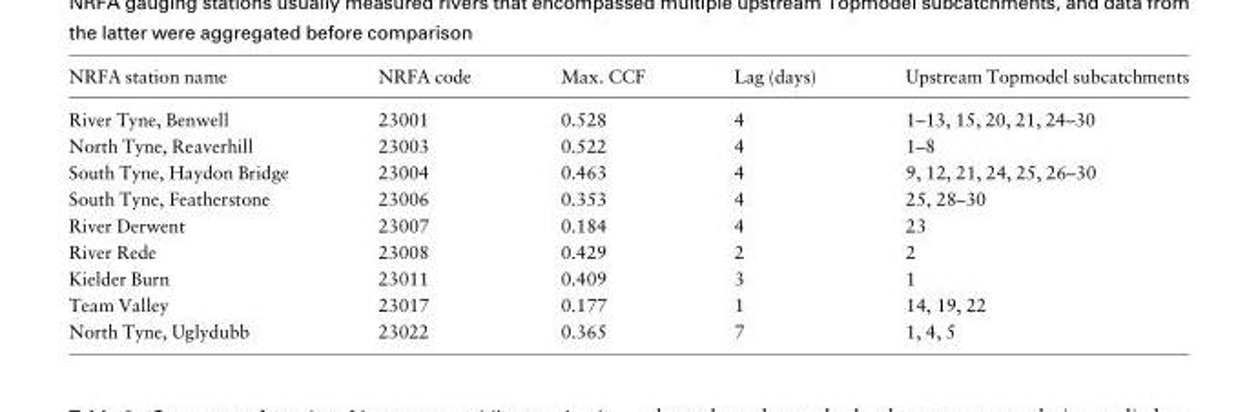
<table><thead><tr><td>NRFA station name</td><td>NRFA code</td><td>Max. CCF</td><td>Lag (days)</td><td>Upstream Topmodel subcatchments</td></tr></thead><tbody><tr><td>River Tyne, Benwell</td><td>23001</td><td>0.528</td><td>4</td><td>1–13, 15, 20, 21, 24–30</td></tr><tr><td>North Tyne, Reaverhill</td><td>23003</td><td>0.522</td><td>4</td><td>1–8</td></tr><tr><td>South Tyne, Haydon Bridge</td><td>23004</td><td>0.463</td><td>4</td><td>9, 12, 21, 24, 25, 26–30</td></tr><tr><td>South Tyne, Featherstone</td><td>23006</td><td>0.353</td><td>4</td><td>25, 28–30</td></tr><tr><td>River Derwent</td><td>23007</td><td>0.184</td><td>4</td><td>23</td></tr><tr><td>River Rede</td><td>23008</td><td>0.429</td><td>2</td><td>2</td></tr><tr><td>Kielder Burn</td><td>23011</td><td>0.409</td><td>3</td><td>1</td></tr><tr><td>Team Valley</td><td>23017</td><td>0.177</td><td>1</td><td>14, 19, 22</td></tr><tr><td>North Tyne, Uglydubb</td><td>23022</td><td>0.365</td><td>7</td><td>1, 4, 5</td></tr></tbody></table>